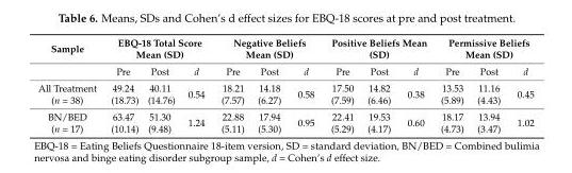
<table><thead><tr><td rowspan="2">Sample</td><td colspan="3">EBQ-18 Total Score Mean (SD)</td><td colspan="3">Negative Beliefs Mean (SD)</td><td colspan="3">Positive Beliefs Mean (SD)</td><td colspan="3">Permissive Beliefs Mean (SD)</td></tr><tr><td>Pre</td><td>Post</td><td>d</td><td>Pre</td><td>Post</td><td>d</td><td>Pre</td><td>Post</td><td>d</td><td>Pre</td><td>Post</td><td>d</td></tr></thead><tbody><tr><td>All Treatment (n = 38)</td><td>49.24 (18.73)</td><td>40.11 (14.76)</td><td>0.54</td><td>18.21 (7.57)</td><td>14.18 (6.27)</td><td>0.58</td><td>17.50 (7.59)</td><td>14.82 (6.46)</td><td>0.38</td><td>13.53 (5.89)</td><td>11.16 (4.43)</td><td>0.45</td></tr><tr><td>BN/BED (n = 17)</td><td>63.47 (10.14)</td><td>51.30 (9.48)</td><td>1.24</td><td>22.88 (5.11)</td><td>17.94 (5.30)</td><td>0.95</td><td>22.41 (5.29)</td><td>19.53 (4.17)</td><td>0.60</td><td>18.17 (4.73)</td><td>13.94 (3.47)</td><td>1.02</td></tr></tbody></table>